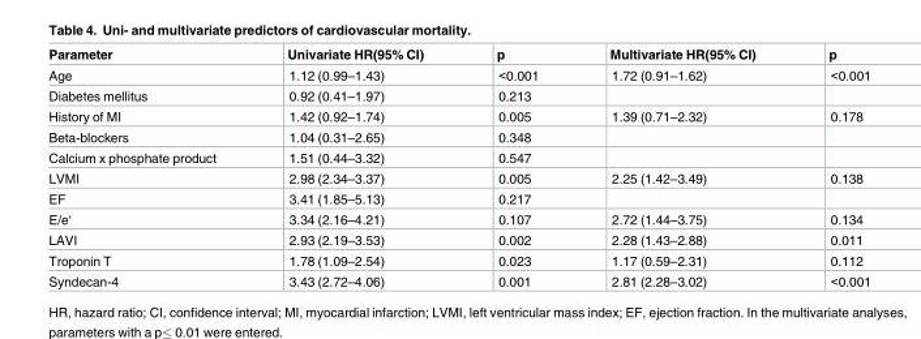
<table><thead><tr><td>Parameter</td><td>Univariate HR(95% CI)</td><td>p</td><td>Multivariate HR(95% CI)</td><td>p</td></tr></thead><tbody><tr><td>Age</td><td>1.12 (0.99–1.43)</td><td>&lt;0.001</td><td>1.72 (0.91–1.62)</td><td>&lt;0.001</td></tr><tr><td>Diabetes mellitus</td><td>0.92 (0.41–1.97)</td><td>0.213</td><td></td><td></td></tr><tr><td>History of MI</td><td>1.42 (0.92–1.74)</td><td>0.005</td><td>1.39 (0.71–2.32)</td><td>0.178</td></tr><tr><td>Beta-blockers</td><td>1.04 (0.31–2.65)</td><td>0.348</td><td></td><td></td></tr><tr><td>Calcium x phosphate product</td><td>1.51 (0.44–3.32)</td><td>0.547</td><td></td><td></td></tr><tr><td>LVMI</td><td>2.98 (2.34–3.37)</td><td>0.005</td><td>2.25 (1.42–3.49)</td><td>0.138</td></tr><tr><td>EF</td><td>3.41 (1.85–5.13)</td><td>0.217</td><td></td><td></td></tr><tr><td>E/e‘</td><td>3.34 (2.16–4.21)</td><td>0.107</td><td>2.72 (1.44–3.75)</td><td>0.134</td></tr><tr><td>LAVI</td><td>2.93 (2.19–3.53)</td><td>0.002</td><td>2.28 (1.43–2.88)</td><td>0.011</td></tr><tr><td>Troponin T</td><td>1.78 (1.09–2.54)</td><td>0.023</td><td>1.17 (0.59–2.31)</td><td>0.112</td></tr><tr><td>Syndecan-4</td><td>3.43 (2.72–4.06)</td><td>0.001</td><td>2.81 (2.28–3.02)</td><td>&lt;0.001</td></tr></tbody></table>